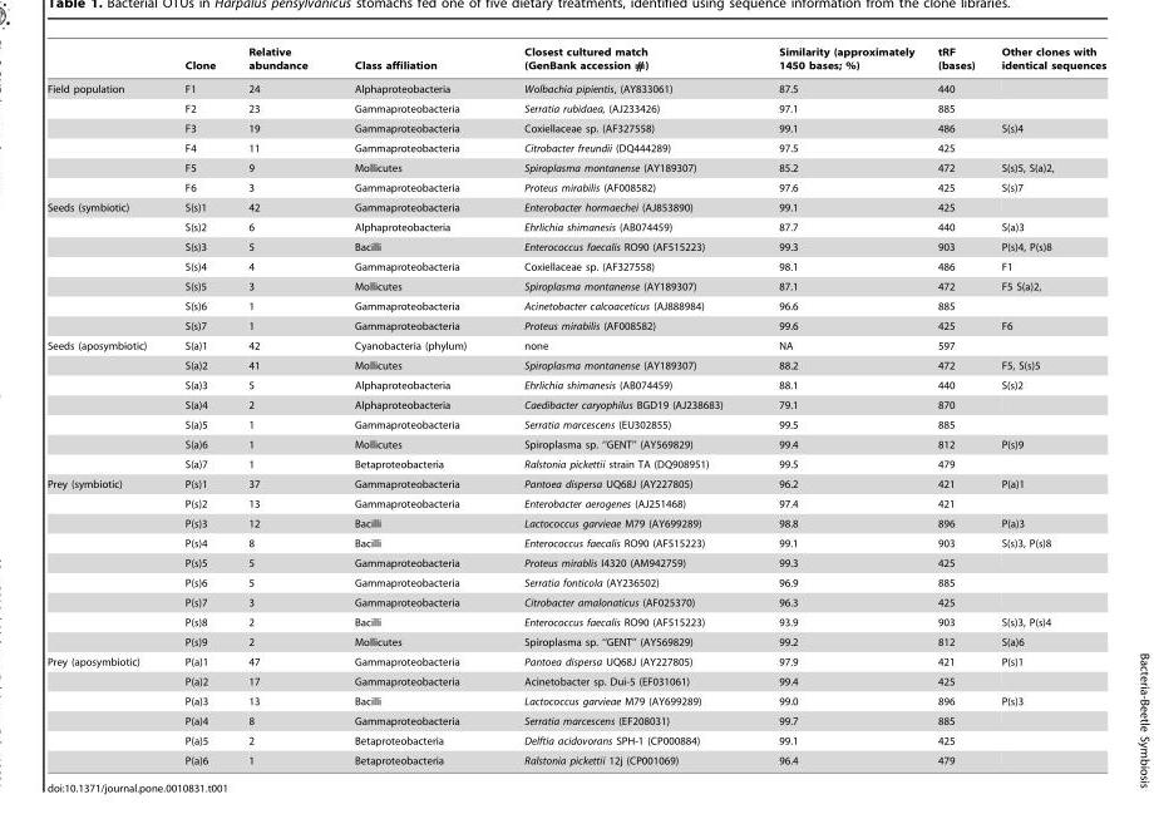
<table><thead><tr><td></td><td>Clone</td><td>Relative abundance</td><td>Class affiliation</td><td>Closest cultured match (GenBank accession #)</td><td>Similarity (approximately 1450 bases; %)</td><td>tRF (bases)</td><td>Other clones with identical sequences</td></tr></thead><tbody><tr><td rowspan="6">Field population</td><td>F1</td><td>24</td><td>Alphaproteobacteria</td><td>Wolbachia pipientis, (AY833061)</td><td>87.5</td><td>440</td><td></td></tr><tr><td>F2</td><td>23</td><td>Gammaproteobacteria</td><td>Serratia rubidaea, (AJ233426)</td><td>97.1</td><td>885</td><td></td></tr><tr><td>F3</td><td>19</td><td>Gammaproteobacteria</td><td>Coxiellaceae sp. (AF327558)</td><td>99.1</td><td>486</td><td>S(s)4</td></tr><tr><td>F4</td><td>11</td><td>Gammaproteobacteria</td><td>Citrobacter freundii (DQ444289)</td><td>97.5</td><td>425</td><td></td></tr><tr><td>F5</td><td>9</td><td>Mollicutes</td><td>Spiroplasma montanense (AY189307)</td><td>85.2</td><td>472</td><td>S(s)5, S(a)2,</td></tr><tr><td>F6</td><td>3</td><td>Gammaproteobacteria</td><td>Proteus mirabilis (AF008582)</td><td>97.6</td><td>425</td><td>S(s)7</td></tr><tr><td rowspan="7">Seeds (symbiotic)</td><td>S(s)1</td><td>42</td><td>Gammaproteobacteria</td><td>Enterobacter hormaechei (AJ853890)</td><td>99.1</td><td>425</td><td></td></tr><tr><td>S(s)2</td><td>6</td><td>Alphaproteobacteria</td><td>Ehrlichia shimanesis (AB074459)</td><td>87.7</td><td>440</td><td>S(a)3</td></tr><tr><td>S(s)3</td><td>5</td><td>Bacilli</td><td>Enterococcus faecalis RO90 (AF515223)</td><td>99.3</td><td>903</td><td>P(s)4, P(s)8</td></tr><tr><td>S(s)4</td><td>4</td><td>Gammaproteobacteria</td><td>Coxiellaceae sp. (AF327558)</td><td>98.1</td><td>486</td><td>F1</td></tr><tr><td>S(s)5</td><td>3</td><td>Mollicutes</td><td>Spiroplasma montanense (AY189307)</td><td>87.1</td><td>472</td><td>F5 S(a)2,</td></tr><tr><td>S(s)6</td><td>1</td><td>Gammaproteobacteria</td><td>Acinetobacter calcoaceticus (AJ888984)</td><td>96.6</td><td>885</td><td></td></tr><tr><td>S(s)7</td><td>1</td><td>Gammaproteobacteria</td><td>Proteus mirabilis (AF008582)</td><td>99.6</td><td>425</td><td>F6</td></tr><tr><td rowspan="7">Seeds (aposymbiotic)</td><td>S(a)1</td><td>42</td><td>Cyanobacteria (phylum)</td><td>none</td><td>NA</td><td>597</td><td></td></tr><tr><td>S(a)2</td><td>41</td><td>Mollicutes</td><td>Spiroplasma montanense (AY189307)</td><td>88.2</td><td>472</td><td>F5, S(s)5</td></tr><tr><td>S(a)3</td><td>5</td><td>Alphaproteobacteria</td><td>Ehrlichia shimanesis (AB074459)</td><td>88.1</td><td>440</td><td>S(s)2</td></tr><tr><td>S(a)4</td><td>2</td><td>Alphaproteobacteria</td><td>Caedibacter caryophilus BGD19 (AJ238683)</td><td>79.1</td><td>870</td><td></td></tr><tr><td>S(a)5</td><td>1</td><td>Gammaproteobacteria</td><td>Serratia marcescens (EU302855)</td><td>99.5</td><td>885</td><td></td></tr><tr><td>S(a)6</td><td>1</td><td>Mollicutes</td><td>Spiroplasma sp. ‘‘GENT’’ (AY569829)</td><td>99.4</td><td>812</td><td>P(s)9</td></tr><tr><td>S(a)7</td><td>1</td><td>Betaproteobacteria</td><td>Ralstonia pickettii strain TA (DQ908951)</td><td>99.5</td><td>479</td><td></td></tr><tr><td rowspan="9">Prey (symbiotic)</td><td>P(s)1</td><td>37</td><td>Gammaproteobacteria</td><td>Pantoea dispersa UQ68J (AY227805)</td><td>96.2</td><td>421</td><td>P(a)1</td></tr><tr><td>P(s)2</td><td>13</td><td>Gammaproteobacteria</td><td>Enterobacter aerogenes (AJ251468)</td><td>97.4</td><td>421</td><td></td></tr><tr><td>P(s)3</td><td>12</td><td>Bacilli</td><td>Lactococcus garvieae M79 (AY699289)</td><td>98.8</td><td>896</td><td>P(a)3</td></tr><tr><td>P(s)4</td><td>8</td><td>Bacilli</td><td>Enterococcus faecalis RO90 (AF515223)</td><td>99.1</td><td>903</td><td>S(s)3, P(s)8</td></tr><tr><td>P(s)5</td><td>5</td><td>Gammaproteobacteria</td><td>Proteus mirablis I4320 (AM942759)</td><td>99.3</td><td>425</td><td></td></tr><tr><td>P(s)6</td><td>5</td><td>Gammaproteobacteria</td><td>Serratia fonticola (AY236502)</td><td>96.9</td><td>885</td><td></td></tr><tr><td>P(s)7</td><td>3</td><td>Gammaproteobacteria</td><td>Citrobacter amalonaticus (AF025370)</td><td>96.3</td><td>425</td><td></td></tr><tr><td>P(s)8</td><td>2</td><td>Bacilli</td><td>Enterococcus faecalis RO90 (AF515223)</td><td>93.9</td><td>903</td><td>S(s)3, P(s)4</td></tr><tr><td>P(s)9</td><td>2</td><td>Mollicutes</td><td>Spiroplasma sp. ‘‘GENT’’ (AY569829)</td><td>99.2</td><td>812</td><td>S(a)6</td></tr><tr><td rowspan="6">Prey (aposymbiotic)</td><td>P(a)1</td><td>47</td><td>Gammaproteobacteria</td><td>Pantoea dispersa UQ68J (AY227805)</td><td>97.9</td><td>421</td><td>P(s)1</td></tr><tr><td>P(a)2</td><td>17</td><td>Gammaproteobacteria</td><td>Acinetobacter sp. Dui-5 (EF031061)</td><td>99.4</td><td>425</td><td></td></tr><tr><td>P(a)3</td><td>13</td><td>Bacilli</td><td>Lactococcus garvieae M79 (AY699289)</td><td>99.0</td><td>896</td><td>P(s)3</td></tr><tr><td>P(a)4</td><td>8</td><td>Gammaproteobacteria</td><td>Serratia marcescens (EF208031)</td><td>99.7</td><td>885</td><td></td></tr><tr><td>P(a)5</td><td>2</td><td>Betaproteobacteria</td><td>Delftia acidovorans SPH-1 (CP000884)</td><td>99.1</td><td>425</td><td></td></tr><tr><td>P(a)6</td><td>1</td><td>Betaproteobacteria</td><td>Ralstonia pickettii 12j (CP001069)</td><td>96.4</td><td>479</td><td></td></tr></tbody></table>